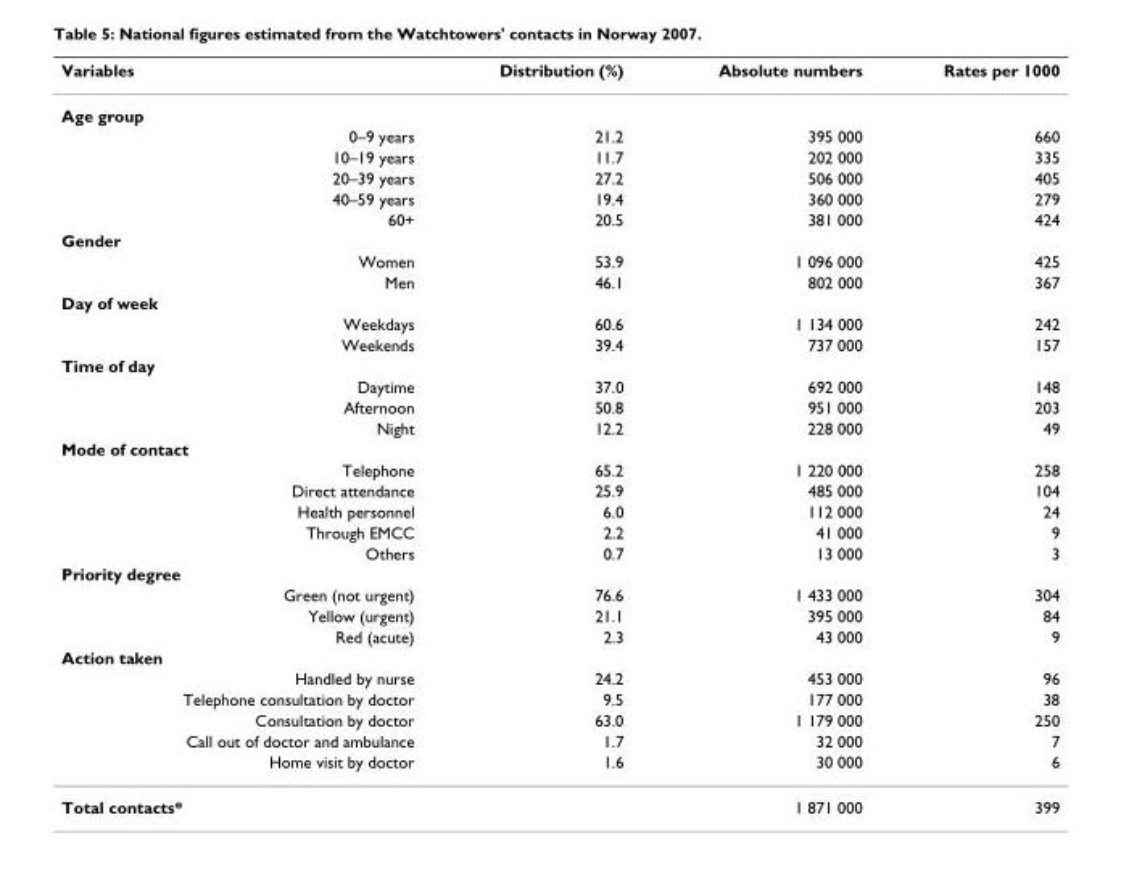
<table><thead><tr><td>Variables</td><td>Distribution (%)</td><td>Absolute numbers</td><td>Rates per 1000</td></tr></thead><tbody><tr><td colspan="4">Age group</td></tr><tr><td>0–9 years</td><td>21.2</td><td>395 000</td><td>660</td></tr><tr><td>10–19 years</td><td>11.7</td><td>202 000</td><td>335</td></tr><tr><td>20–39 years</td><td>27.2</td><td>506 000</td><td>405</td></tr><tr><td>40–59 years</td><td>19.4</td><td>360 000</td><td>279</td></tr><tr><td>60+</td><td>20.5</td><td>381 000</td><td>424</td></tr><tr><td colspan="4">Gender</td></tr><tr><td>Women</td><td>53.9</td><td>1 096 000</td><td>425</td></tr><tr><td>Men</td><td>46.1</td><td>802 000</td><td>367</td></tr><tr><td colspan="4">Day of week</td></tr><tr><td>Weekdays</td><td>60.6</td><td>1 134 000</td><td>242</td></tr><tr><td>Weekends</td><td>39.4</td><td>737 000</td><td>157</td></tr><tr><td colspan="4">Time of day</td></tr><tr><td>Daytime</td><td>37.0</td><td>692 000</td><td>148</td></tr><tr><td>Afternoon</td><td>50.8</td><td>951 000</td><td>203</td></tr><tr><td>Night</td><td>12.2</td><td>228 000</td><td>49</td></tr><tr><td colspan="4">Mode of contact</td></tr><tr><td>Telephone</td><td>65.2</td><td>1 220 000</td><td>258</td></tr><tr><td>Direct attendance</td><td>25.9</td><td>485 000</td><td>104</td></tr><tr><td>Health personnel</td><td>6.0</td><td>112 000</td><td>24</td></tr><tr><td>Through EMCC</td><td>2.2</td><td>41 000</td><td>9</td></tr><tr><td>Others</td><td>0.7</td><td>13 000</td><td>3</td></tr><tr><td colspan="4">Priority degree</td></tr><tr><td>Green (not urgent)</td><td>76.6</td><td>1 433 000</td><td>304</td></tr><tr><td>Yellow (urgent)</td><td>21.1</td><td>395 000</td><td>84</td></tr><tr><td>Red (acute)</td><td>2.3</td><td>43 000</td><td>9</td></tr><tr><td colspan="4">Action taken</td></tr><tr><td>Handled by nurse</td><td>24.2</td><td>453 000</td><td>96</td></tr><tr><td>Telephone consultation by doctor</td><td>9.5</td><td>177 000</td><td>38</td></tr><tr><td>Consultation by doctor</td><td>63.0</td><td>1 179 000</td><td>250</td></tr><tr><td>Call out of doctor and ambulance</td><td>1.7</td><td>32 000</td><td>7</td></tr><tr><td>Home visit by doctor</td><td>1.6</td><td>30 000</td><td>6</td></tr><tr><td>Total contacts*</td><td></td><td>1 871 000</td><td>399</td></tr></tbody></table>